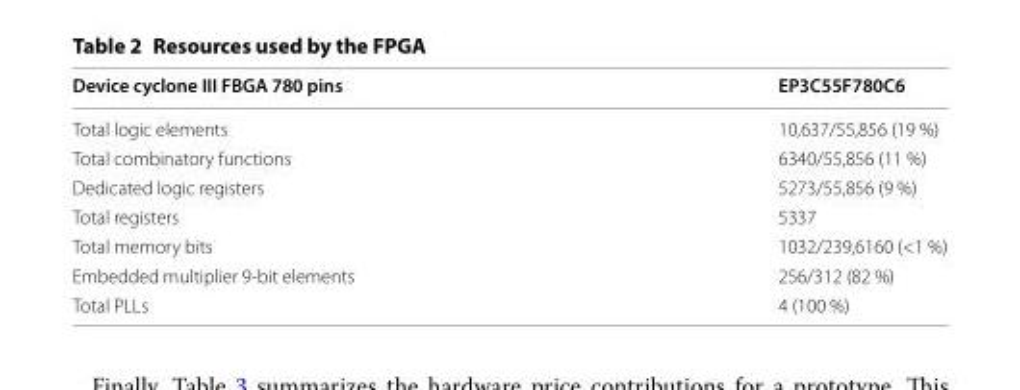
<table><thead><tr><td>Device cyclone III FBGA 780 pins</td><td>EP3C55F780C6</td></tr></thead><tbody><tr><td>Total logic elements</td><td>10,637/55,856 (19 %)</td></tr><tr><td>Total combinatory functions</td><td>6340/55,856 (11 %)</td></tr><tr><td>Dedicated logic registers</td><td>5273/55,856 (9 %)</td></tr><tr><td>Total registers</td><td>5337</td></tr><tr><td>Total memory bits</td><td>1032/239,6160 (&lt;1 %)</td></tr><tr><td>Embedded multiplier 9-bit elements</td><td>256/312 (82 %)</td></tr><tr><td>Total PLLs</td><td>4 (100 %)</td></tr></tbody></table>